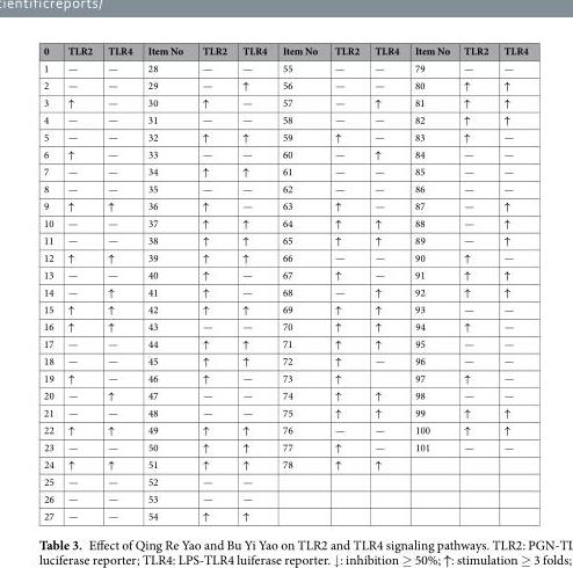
<table><thead><tr><td>0</td><td>TLR2</td><td>TLR4</td><td>Item No</td><td>TLR2</td><td>TLR4</td><td>Item No</td><td>TLR2</td><td>TLR4</td><td>Item No</td><td>TLR2</td><td>TLR4</td></tr></thead><tbody><tr><td>1</td><td>—</td><td>—</td><td>28</td><td>—</td><td>—</td><td>55</td><td>—</td><td>—</td><td>79</td><td>—</td><td>—</td></tr><tr><td>2</td><td>—</td><td>—</td><td>29</td><td>—</td><td>↑</td><td>56</td><td>—</td><td>—</td><td>80</td><td>↑</td><td>↑</td></tr><tr><td>3</td><td>↑</td><td>—</td><td>30</td><td>↑</td><td>—</td><td>57</td><td>—</td><td>↑</td><td>81</td><td>↑</td><td>↑</td></tr><tr><td>4</td><td>—</td><td>—</td><td>31</td><td>—</td><td>—</td><td>58</td><td>—</td><td>—</td><td>82</td><td>↑</td><td>↑</td></tr><tr><td>5</td><td>—</td><td>—</td><td>32</td><td>↑</td><td>↑</td><td>59</td><td>↑</td><td>—</td><td>83</td><td>↑</td><td>—</td></tr><tr><td>6</td><td>↑</td><td>—</td><td>33</td><td>—</td><td>—</td><td>60</td><td>—</td><td>↑</td><td>84</td><td>—</td><td>—</td></tr><tr><td>7</td><td>—</td><td>—</td><td>34</td><td>↑</td><td>↑</td><td>61</td><td>—</td><td>—</td><td>85</td><td>—</td><td>—</td></tr><tr><td>8</td><td>—</td><td>—</td><td>35</td><td>—</td><td>—</td><td>62</td><td>—</td><td>—</td><td>86</td><td>—</td><td>—</td></tr><tr><td>9</td><td>↑</td><td>↑</td><td>36</td><td>↑</td><td>—</td><td>63</td><td>↑</td><td>—</td><td>87</td><td>—</td><td>↑</td></tr><tr><td>10</td><td>—</td><td>—</td><td>37</td><td>↑</td><td>↑</td><td>64</td><td>↑</td><td>↑</td><td>88</td><td>—</td><td>↑</td></tr><tr><td>11</td><td>—</td><td>—</td><td>38</td><td>↑</td><td>↑</td><td>65</td><td>↑</td><td>↑</td><td>89</td><td>—</td><td>↑</td></tr><tr><td>12</td><td>↑</td><td>↑</td><td>39</td><td>↑</td><td>↑</td><td>66</td><td>—</td><td>—</td><td>90</td><td>↑</td><td>—</td></tr><tr><td>13</td><td>—</td><td>—</td><td>40</td><td>↑</td><td>—</td><td>67</td><td>↑</td><td>—</td><td>91</td><td>↑</td><td>↑</td></tr><tr><td>14</td><td>—</td><td>↑</td><td>41</td><td>↑</td><td>—</td><td>68</td><td>—</td><td>↑</td><td>92</td><td>↑</td><td>↑</td></tr><tr><td>15</td><td>↑</td><td>↑</td><td>42</td><td>↑</td><td>↑</td><td>69</td><td>↑</td><td>↑</td><td>93</td><td>—</td><td>—</td></tr><tr><td>16</td><td>↑</td><td>↑</td><td>43</td><td>—</td><td>—</td><td>70</td><td>↑</td><td>↑</td><td>94</td><td>↑</td><td>—</td></tr><tr><td>17</td><td>—</td><td>—</td><td>44</td><td>↑</td><td>↑</td><td>71</td><td>↑</td><td>↑</td><td>95</td><td>—</td><td>—</td></tr><tr><td>18</td><td>—</td><td>—</td><td>45</td><td>↑</td><td>↑</td><td>72</td><td>↑</td><td>—</td><td>96</td><td>—</td><td>—</td></tr><tr><td>19</td><td>↑</td><td>—</td><td>46</td><td>↑</td><td>—</td><td>73</td><td>↑</td><td></td><td>97</td><td>↑</td><td>—</td></tr><tr><td>20</td><td>—</td><td>↑</td><td>47</td><td>—</td><td>—</td><td>74</td><td>↑</td><td>↑</td><td>98</td><td>—</td><td>—</td></tr><tr><td>21</td><td>—</td><td>—</td><td>48</td><td>—</td><td>—</td><td>75</td><td>↑</td><td>↑</td><td>99</td><td>↑</td><td>↑</td></tr><tr><td>22</td><td>↑</td><td>↑</td><td>49</td><td>↑</td><td>↑</td><td>76</td><td>—</td><td>—</td><td>100</td><td>↑</td><td>↑</td></tr><tr><td>23</td><td>—</td><td>—</td><td>50</td><td>↑</td><td>↑</td><td>77</td><td>↑</td><td>—</td><td>101</td><td>—</td><td>—</td></tr><tr><td>24</td><td>↑</td><td>↑</td><td>51</td><td>↑</td><td>↑</td><td>78</td><td>↑</td><td>↑</td><td></td><td></td><td></td></tr><tr><td>25</td><td>—</td><td>—</td><td>52</td><td>—</td><td>—</td><td></td><td></td><td></td><td></td><td></td><td></td></tr><tr><td>26</td><td>—</td><td>—</td><td>53</td><td>—</td><td>—</td><td></td><td></td><td></td><td></td><td></td><td></td></tr><tr><td>27</td><td>—</td><td>—</td><td>54</td><td>↑</td><td>↑</td><td></td><td></td><td></td><td></td><td></td><td></td></tr></tbody></table>